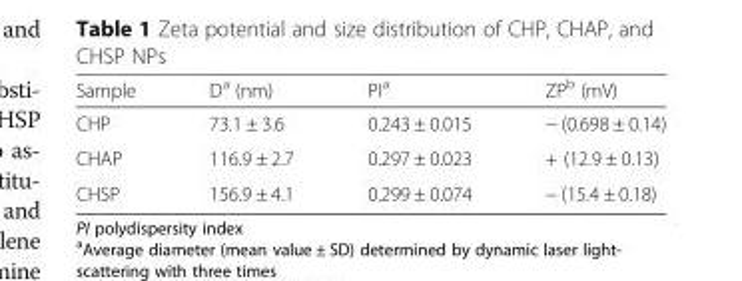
<table><thead><tr><td>Sample</td><td>D<sup>a</sup> (nm)</td><td>PI<sup>a</sup></td><td>ZP<sup>b</sup> (mV)</td></tr></thead><tbody><tr><td>CHP</td><td>73.1 ± 3.6</td><td>0.243 ± 0.015</td><td>− (0.698 ± 0.14)</td></tr><tr><td>CHAP</td><td>116.9 ± 2.7</td><td>0.297 ± 0.023</td><td>+ (12.9 ± 0.13)</td></tr><tr><td>CHSP</td><td>156.9 ± 4.1</td><td>0.299 ± 0.074</td><td>− (15.4 ± 0.18)</td></tr></tbody></table>